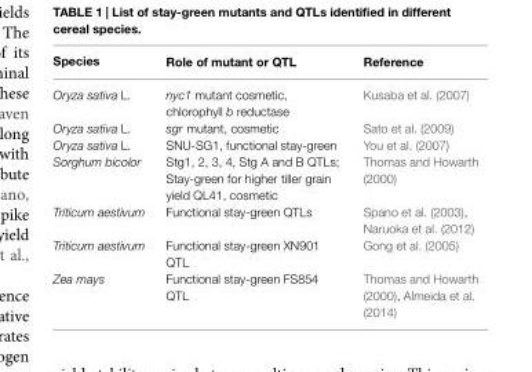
<table><thead><tr><td>Species</td><td>Role of mutant or QTL</td><td>Reference</td></tr></thead><tbody><tr><td>Oryza sativa L.</td><td>nyc1 mutant cosmetic, chlorophyll b reductase</td><td>Kusaba et al. (2007)</td></tr><tr><td>Oryza sativa L.</td><td>sgr mutant, cosmetic</td><td>Sato et al. (2009)</td></tr><tr><td>Oryza sativa L.</td><td>SNU-SG1, functional stay-green</td><td>You et al. (2007)</td></tr><tr><td>Sorghum bicolor</td><td>Stg1, 2, 3, 4, Stg A and B QTLs; Stay-green for higher tiller grain yield QL41, cosmetic</td><td>Thomas and Howarth (2000)</td></tr><tr><td>Triticum aestivum</td><td>Functional stay-green QTLs</td><td>Spano et al. (2003), Naruoka et al. (2012)</td></tr><tr><td>Triticum aestivum</td><td>Functional stay-green XN901 QTL</td><td>Gong et al. (2005)</td></tr><tr><td>Zea mays</td><td>Functional stay-green FS854 QTL</td><td>Thomas and Howarth (2000), Almeida et al. (2014)</td></tr></tbody></table>